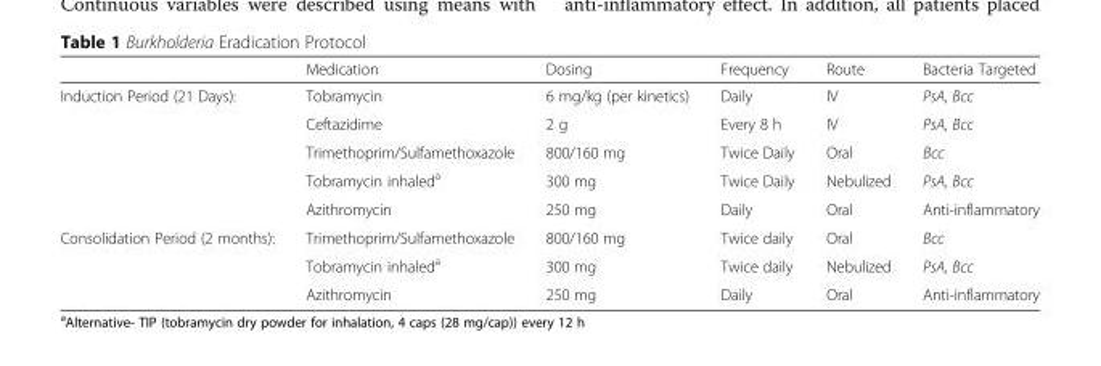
<table><thead><tr><td></td><td>Medication</td><td>Dosing</td><td>Frequency</td><td>Route</td><td>Bacteria Targeted</td></tr></thead><tbody><tr><td rowspan="5">Induction Period (21 Days):</td><td>Tobramycin</td><td>6 mg/kg (per kinetics)</td><td>Daily</td><td>IV</td><td>PsA, Bcc</td></tr><tr><td>Ceftazidime</td><td>2 g</td><td>Every 8 h</td><td>IV</td><td>PsA, Bcc</td></tr><tr><td>Trimethoprim/Sulfamethoxazole</td><td>800/160 mg</td><td>Twice Daily</td><td>Oral</td><td>Bcc</td></tr><tr><td>Tobramycin inhaled<sup>a</sup></td><td>300 mg</td><td>Twice Daily</td><td>Nebulized</td><td>PsA, Bcc</td></tr><tr><td>Azithromycin</td><td>250 mg</td><td>Daily</td><td>Oral</td><td>Anti-inflammatory</td></tr><tr><td rowspan="3">Consolidation Period (2 months):</td><td>Trimethoprim/Sulfamethoxazole</td><td>800/160 mg</td><td>Twice daily</td><td>Oral</td><td>Bcc</td></tr><tr><td>Tobramycin inhaled<sup>a</sup></td><td>300 mg</td><td>Twice daily</td><td>Nebulized</td><td>PsA, Bcc</td></tr><tr><td>Azithromycin</td><td>250 mg</td><td>Daily</td><td>Oral</td><td>Anti-inflammatory</td></tr></tbody></table>